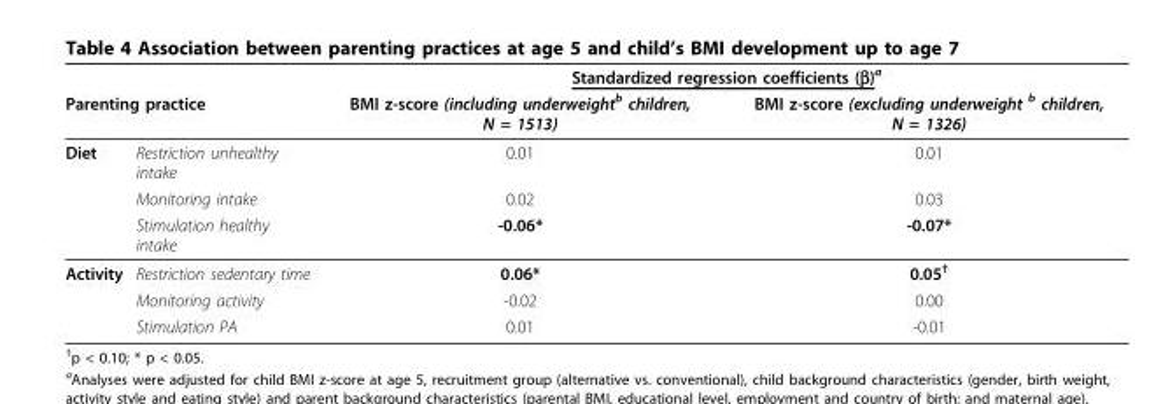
<table><thead><tr><td></td><td></td><td colspan="2">Standardized regression coefficients (β)<sup>a</sup></td></tr><tr><td colspan="2">Parenting practice</td><td>BMI z-score (including underweight<sup>b</sup> children, N = 1513)</td><td>BMI z-score (excluding underweight <sup>b</sup> children, N = 1326)</td></tr></thead><tbody><tr><td rowspan="3">Diet</td><td>Restriction unhealthy intake</td><td>0.01</td><td>0.01</td></tr><tr><td>Monitoring intake</td><td>0.02</td><td>0.03</td></tr><tr><td>Stimulation healthy intake</td><td>-0.06*</td><td>-0.07*</td></tr><tr><td rowspan="3">Activity</td><td>Restriction sedentary time</td><td>0.06*</td><td>0.05<sup>†</sup></td></tr><tr><td>Monitoring activity</td><td>-0.02</td><td>0.00</td></tr><tr><td>Stimulation PA</td><td>0.01</td><td>-0.01</td></tr></tbody></table>